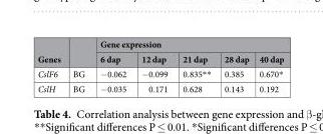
<table><thead><tr><td rowspan="2">Genes</td><td rowspan="2"></td><td colspan="5">Gene expression</td></tr><tr><td>6 dap</td><td>12 dap</td><td>21 dap</td><td>28 dap</td><td>40 dap</td></tr></thead><tbody><tr><td>CslF6</td><td>BG</td><td>−0.062</td><td>−0.099</td><td>0.835**</td><td>0.385</td><td>0.670*</td></tr><tr><td>CslH</td><td>BG</td><td>−0.035</td><td>0.171</td><td>0.628</td><td>0.143</td><td>0.192</td></tr></tbody></table>